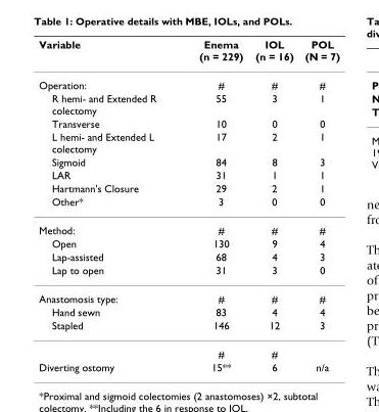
<table><thead><tr><td>Variable</td><td>Enema (n = 229)</td><td>IOL (n = 16)</td><td>POL (N = 7)</td></tr></thead><tbody><tr><td>Operation:</td><td>#</td><td>#</td><td>#</td></tr><tr><td>R hemi- and Extended R colectomy</td><td>55</td><td>3</td><td>1</td></tr><tr><td>Transverse</td><td>10</td><td>0</td><td>0</td></tr><tr><td>L hemi- and Extended L colectomy</td><td>17</td><td>2</td><td>1</td></tr><tr><td>Sigmoid</td><td>84</td><td>8</td><td>3</td></tr><tr><td>LAR</td><td>31</td><td>1</td><td>1</td></tr><tr><td>Hartmann&#x27;s Closure</td><td>29</td><td>2</td><td>1</td></tr><tr><td>Other*</td><td>3</td><td>0</td><td>0</td></tr><tr><td>Method:</td><td>#</td><td>#</td><td>#</td></tr><tr><td>Open</td><td>130</td><td>9</td><td>4</td></tr><tr><td>Lap-assisted</td><td>68</td><td>4</td><td>3</td></tr><tr><td>Lap to open</td><td>31</td><td>3</td><td>0</td></tr><tr><td>Anastomosis type:</td><td>#</td><td>#</td><td>#</td></tr><tr><td>Hand sewn</td><td>83</td><td>4</td><td>4</td></tr><tr><td rowspan="2">Stapled</td><td>146</td><td>12</td><td>3</td></tr><tr><td>#</td><td>#</td><td></td></tr><tr><td>Diverting ostomy</td><td>15**</td><td>6</td><td>n/a</td></tr></tbody></table>